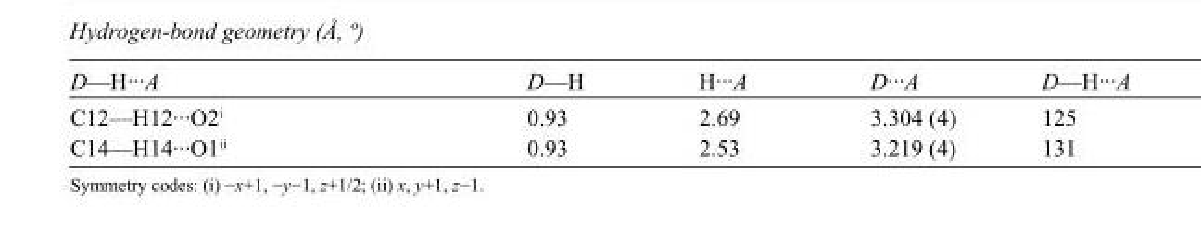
<table><tbody><tr><td>D—H···A</td><td>D—H</td><td>H···A</td><td>D···A</td><td>D—H···A</td></tr><tr><td>C12—H12···O2<sup>i</sup></td><td>0.93</td><td>2.69</td><td>3.304 (4)</td><td>125</td></tr><tr><td>C14—H14···O1<sup>ii</sup></td><td>0.93</td><td>2.53</td><td>3.219 (4)</td><td>131</td></tr></tbody></table>